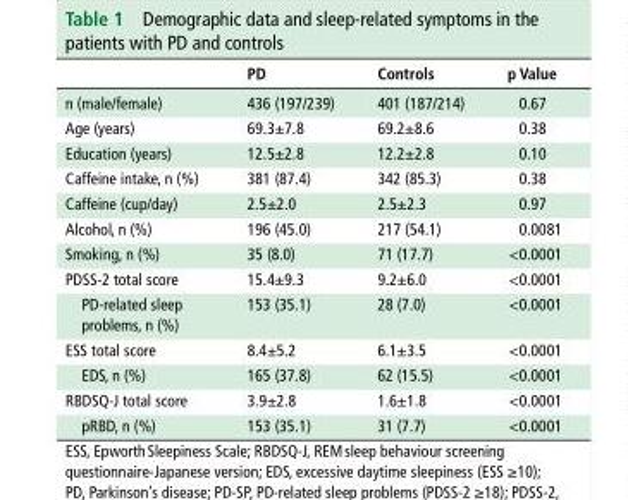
<table><thead><tr><td></td><td>Pd</td><td>controls</td><td>p Value</td></tr></thead><tbody><tr><td>n (male/female)</td><td>436 (197/239)</td><td>401 (187/214)</td><td>0.67</td></tr><tr><td>Age (years)</td><td>69.3±7.8</td><td>69.2±8.6</td><td>0.38</td></tr><tr><td>Education (years)</td><td>12.5±2.8</td><td>12.2±2.8</td><td>0.10</td></tr><tr><td>Caffeine intake, n (%)</td><td>381 (87.4)</td><td>342 (85.3)</td><td>0.38</td></tr><tr><td>Caffeine (cup/day)</td><td>2.5±2.0</td><td>2.5±2.3</td><td>0.97</td></tr><tr><td>Alcohol, n (%)</td><td>196 (45.0)</td><td>217 (54.1)</td><td>0.0081</td></tr><tr><td>Smoking, n (%)</td><td>35 (8.0)</td><td>71 (17.7)</td><td>&lt;0.0001</td></tr><tr><td>PDSS-2 total score</td><td>15.4±9.3</td><td>9.2±6.0</td><td>&lt;0.0001</td></tr><tr><td>PD-related sleep problems, n (%)</td><td>153 (35.1)</td><td>28 (7.0)</td><td>&lt;0.0001</td></tr><tr><td>ESS total score</td><td>8.4±5.2</td><td>6.1±3.5</td><td>&lt;0.0001</td></tr><tr><td>EDS, n (%)</td><td>165 (37.8)</td><td>62 (15.5)</td><td>&lt;0.0001</td></tr><tr><td>RBDSQ-J total score</td><td>3.9±2.8</td><td>1.6±1.8</td><td>&lt;0.0001</td></tr><tr><td>pRBD, n (%)</td><td>153 (35.1)</td><td>31 (7.7)</td><td>&lt;0.0001</td></tr></tbody></table>